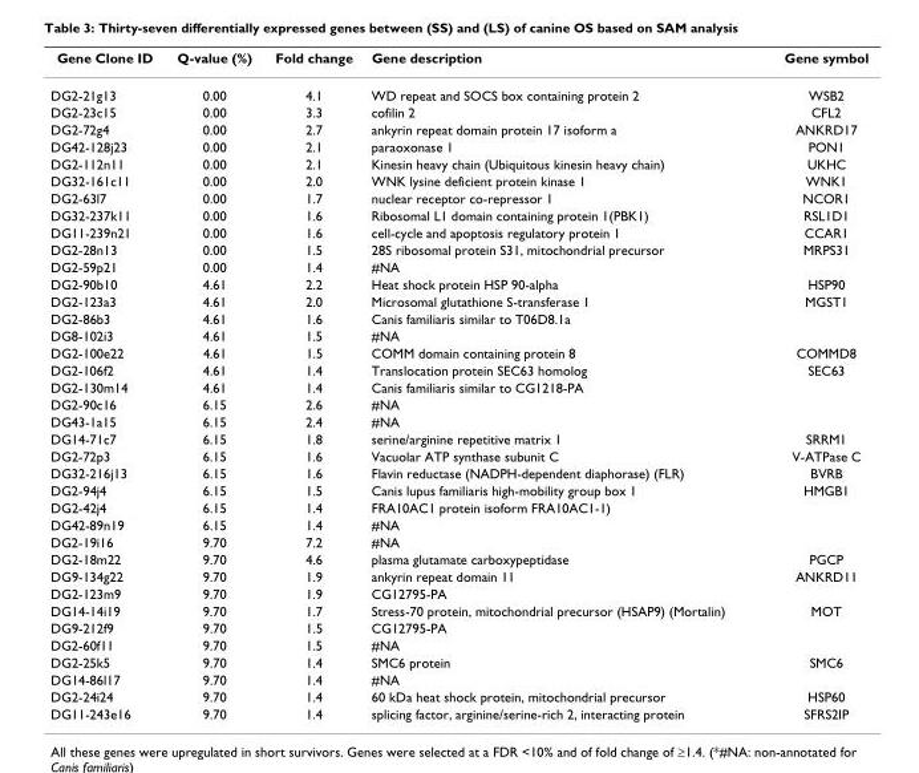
<table><thead><tr><td>Gene Clone ID</td><td>Q-value (%)</td><td>Fold change</td><td>Gene description</td><td>Gene symbol</td></tr></thead><tbody><tr><td>DG2-21g13</td><td>0.00</td><td>4.1</td><td>WD repeat and SOCS box containing protein 2</td><td>WSB2</td></tr><tr><td>DG2-23c15</td><td>0.00</td><td>3.3</td><td>cofilin 2</td><td>CFL2</td></tr><tr><td>DG2-72g4</td><td>0.00</td><td>2.7</td><td>ankyrin repeat domain protein 17 isoform a</td><td>ANKRD17</td></tr><tr><td>DG42-128j23</td><td>0.00</td><td>2.1</td><td>paraoxonase 1</td><td>PON1</td></tr><tr><td>DG2-112n11</td><td>0.00</td><td>2.1</td><td>Kinesin heavy chain (Ubiquitous kinesin heavy chain)</td><td>UKHC</td></tr><tr><td>DG32-161c11</td><td>0.00</td><td>2.0</td><td>WNK lysine deficient protein kinase 1</td><td>WNK1</td></tr><tr><td>DG2-63l7</td><td>0.00</td><td>1.7</td><td>nuclear receptor co-repressor 1</td><td>NCOR1</td></tr><tr><td>DG32-237k11</td><td>0.00</td><td>1.6</td><td>Ribosomal L1 domain containing protein 1(PBK1)</td><td>RSL1D1</td></tr><tr><td>DG11-239n21</td><td>0.00</td><td>1.6</td><td>cell-cycle and apoptosis regulatory protein 1</td><td>CCAR1</td></tr><tr><td>DG2-28n13</td><td>0.00</td><td>1.5</td><td>28S ribosomal protein S31, mitochondrial precursor</td><td>MRPS31</td></tr><tr><td>DG2-59p21</td><td>0.00</td><td>1.4</td><td>#NA</td><td></td></tr><tr><td>DG2-90b10</td><td>4.61</td><td>2.2</td><td>Heat shock protein HSP 90-alpha</td><td>HSP90</td></tr><tr><td>DG2-123a3</td><td>4.61</td><td>2.0</td><td>Microsomal glutathione S-transferase 1</td><td>MGST1</td></tr><tr><td>DG2-86b3</td><td>4.61</td><td>1.6</td><td>Canis familiaris similar to T06D8.1a</td><td></td></tr><tr><td>DG8-102i3</td><td>4.61</td><td>1.5</td><td>#NA</td><td></td></tr><tr><td>DG2-100e22</td><td>4.61</td><td>1.5</td><td>COMM domain containing protein 8</td><td>COMMD8</td></tr><tr><td>DG2-106f2</td><td>4.61</td><td>1.4</td><td>Translocation protein SEC63 homolog</td><td>SEC63</td></tr><tr><td>DG2-130m14</td><td>4.61</td><td>1.4</td><td>Canis familiaris similar to CG1218-PA</td><td></td></tr><tr><td>DG2-90c16</td><td>6.15</td><td>2.6</td><td>#NA</td><td></td></tr><tr><td>DG43-1a15</td><td>6.15</td><td>2.4</td><td>#NA</td><td></td></tr><tr><td>DG14-71c7</td><td>6.15</td><td>1.8</td><td>serine/arginine repetitive matrix 1</td><td>SRRM1</td></tr><tr><td>DG2-72p3</td><td>6.15</td><td>1.6</td><td>Vacuolar ATP synthase subunit C</td><td>V-ATPase C</td></tr><tr><td>DG32-216j13</td><td>6.15</td><td>1.6</td><td>Flavin reductase (NADPH-dependent diaphorase) (FLR)</td><td>BVRB</td></tr><tr><td>DG2-94j4</td><td>6.15</td><td>1.5</td><td>Canis lupus familiaris high-mobility group box 1</td><td>HMGB1</td></tr><tr><td>DG2-42j4</td><td>6.15</td><td>1.4</td><td>FRA10AC1 protein isoform FRA10AC1-1)</td><td></td></tr><tr><td>DG42-89n19</td><td>6.15</td><td>1.4</td><td>#NA</td><td></td></tr><tr><td>DG2-19i16</td><td>9.70</td><td>7.2</td><td>#NA</td><td></td></tr><tr><td>DG2-18m22</td><td>9.70</td><td>4.6</td><td>plasma glutamate carboxypeptidase</td><td>PGCP</td></tr><tr><td>DG9-134g22</td><td>9.70</td><td>1.9</td><td>ankyrin repeat domain 11</td><td>ANKRD11</td></tr><tr><td>DG2-123m9</td><td>9.70</td><td>1.9</td><td>CG12795-PA</td><td></td></tr><tr><td>DG14-14i19</td><td>9.70</td><td>1.7</td><td>Stress-70 protein, mitochondrial precursor (HSAP9) (Mortalin)</td><td>MOT</td></tr><tr><td>DG9-212f9</td><td>9.70</td><td>1.5</td><td>CG12795-PA</td><td></td></tr><tr><td>DG2-60f11</td><td>9.70</td><td>1.5</td><td>#NA</td><td></td></tr><tr><td>DG2-25k5</td><td>9.70</td><td>1.4</td><td>SMC6 protein</td><td>SMC6</td></tr><tr><td>DG14-86l17</td><td>9.70</td><td>1.4</td><td>#NA</td><td></td></tr><tr><td>DG2-24i24</td><td>9.70</td><td>1.4</td><td>60 kDa heat shock protein, mitochondrial precursor</td><td>HSP60</td></tr><tr><td>DG11-243e16</td><td>9.70</td><td>1.4</td><td>splicing factor, arginine/serine-rich 2, interacting protein</td><td>SFRS2IP</td></tr></tbody></table>